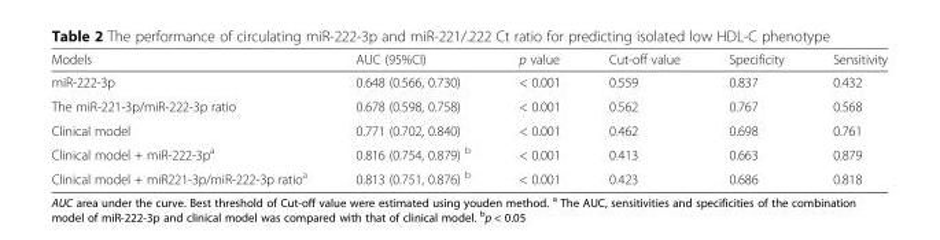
<table><thead><tr><td>Models</td><td>AUC (95%CI)</td><td>p value</td><td>Cut-off value</td><td>Specificity</td><td>Sensitivity</td></tr></thead><tbody><tr><td>miR-222-3p</td><td>0.648 (0.566, 0.730)</td><td>&lt; 0.001</td><td>0.559</td><td>0.837</td><td>0.432</td></tr><tr><td>The miR-221-3p/miR-222-3p ratio</td><td>0.678 (0.598, 0.758)</td><td>&lt; 0.001</td><td>0.562</td><td>0.767</td><td>0.568</td></tr><tr><td>Clinical model</td><td>0.771 (0.702, 0.840)</td><td>&lt; 0.001</td><td>0.462</td><td>0.698</td><td>0.761</td></tr><tr><td>Clinical model + miR-222-3p<sup>a</sup></td><td>0.816 (0.754, 0.879) <sup>b</sup></td><td>&lt; 0.001</td><td>0.413</td><td>0.663</td><td>0.879</td></tr><tr><td>Clinical model + miR221-3p/miR-222-3p ratio<sup>a</sup></td><td>0.813 (0.751, 0.876) <sup>b</sup></td><td>&lt; 0.001</td><td>0.423</td><td>0.686</td><td>0.818</td></tr></tbody></table>